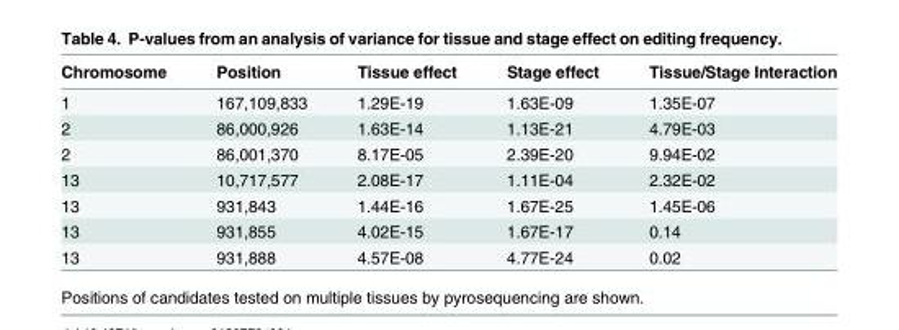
<table><thead><tr><td>Chromosome</td><td>Position</td><td>Tissue effect</td><td>Stage effect</td><td>Tissue/Stage Interaction</td></tr></thead><tbody><tr><td>1</td><td>167,109,833</td><td>1.29E-19</td><td>1.63E-09</td><td>1.35E-07</td></tr><tr><td>2</td><td>86,000,926</td><td>1.63E-14</td><td>1.13E-21</td><td>4.79E-03</td></tr><tr><td>2</td><td>86,001,370</td><td>8.17E-05</td><td>2.39E-20</td><td>9.94E-02</td></tr><tr><td>13</td><td>10,717,577</td><td>2.08E-17</td><td>1.11E-04</td><td>2.32E-02</td></tr><tr><td>13</td><td>931,843</td><td>1.44E-16</td><td>1.67E-25</td><td>1.45E-06</td></tr><tr><td>13</td><td>931,855</td><td>4.02E-15</td><td>1.67E-17</td><td>0.14</td></tr><tr><td>13</td><td>931,888</td><td>4.57E-08</td><td>4.77E-24</td><td>0.02</td></tr></tbody></table>